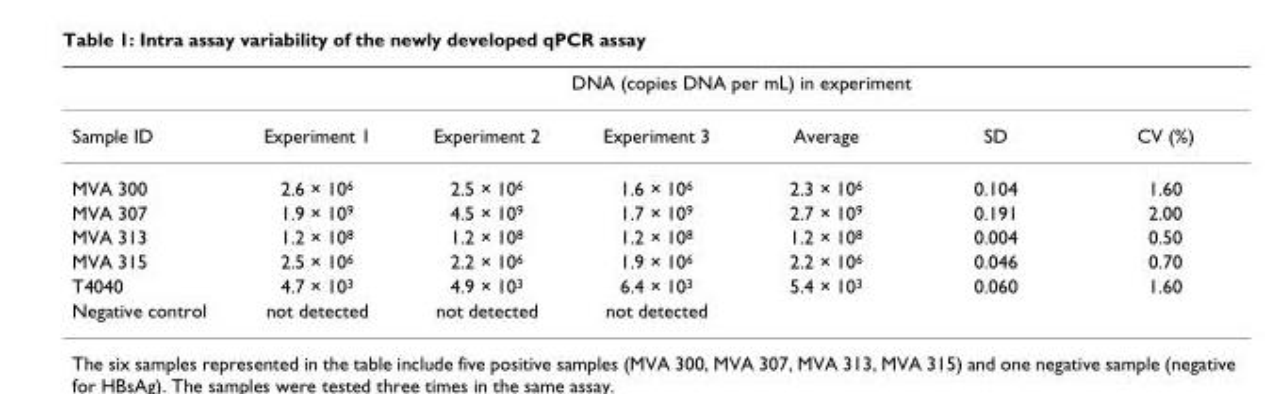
<table><thead><tr><td rowspan="2">Sample ID</td><td colspan="6">DNA (copies DNA per mL) in experiment</td></tr><tr><td>Experiment 1</td><td>Experiment 2</td><td>Experiment 3</td><td>Average</td><td>SD</td><td>CV (%)</td></tr></thead><tbody><tr><td>MVA 300</td><td>2.6 × 10<sup>6</sup></td><td>2.5 × 10<sup>6</sup></td><td>1.6 × 10<sup>6</sup></td><td>2.3 × 10<sup>6</sup></td><td>0.104</td><td>1.60</td></tr><tr><td>MVA 307</td><td>1.9 × 10<sup>9</sup></td><td>4.5 × 10<sup>9</sup></td><td>1.7 × 10<sup>9</sup></td><td>2.7 × 10<sup>9</sup></td><td>0.191</td><td>2.00</td></tr><tr><td>MVA 313</td><td>1.2 × 10<sup>8</sup></td><td>1.2 × 10<sup>8</sup></td><td>1.2 × 10<sup>8</sup></td><td>1.2 × 10<sup>8</sup></td><td>0.004</td><td>0.50</td></tr><tr><td>MVA 315</td><td>2.5 × 10<sup>6</sup></td><td>2.2 × 10<sup>6</sup></td><td>1.9 × 10<sup>6</sup></td><td>2.2 × 10<sup>6</sup></td><td>0.046</td><td>0.70</td></tr><tr><td>T4040</td><td>4.7 × 10<sup>3</sup></td><td>4.9 × 10<sup>3</sup></td><td>6.4 × 10<sup>3</sup></td><td>5.4 × 10<sup>3</sup></td><td>0.060</td><td>1.60</td></tr><tr><td>Negative control</td><td>not detected</td><td>not detected</td><td>not detected</td><td></td><td></td><td></td></tr></tbody></table>